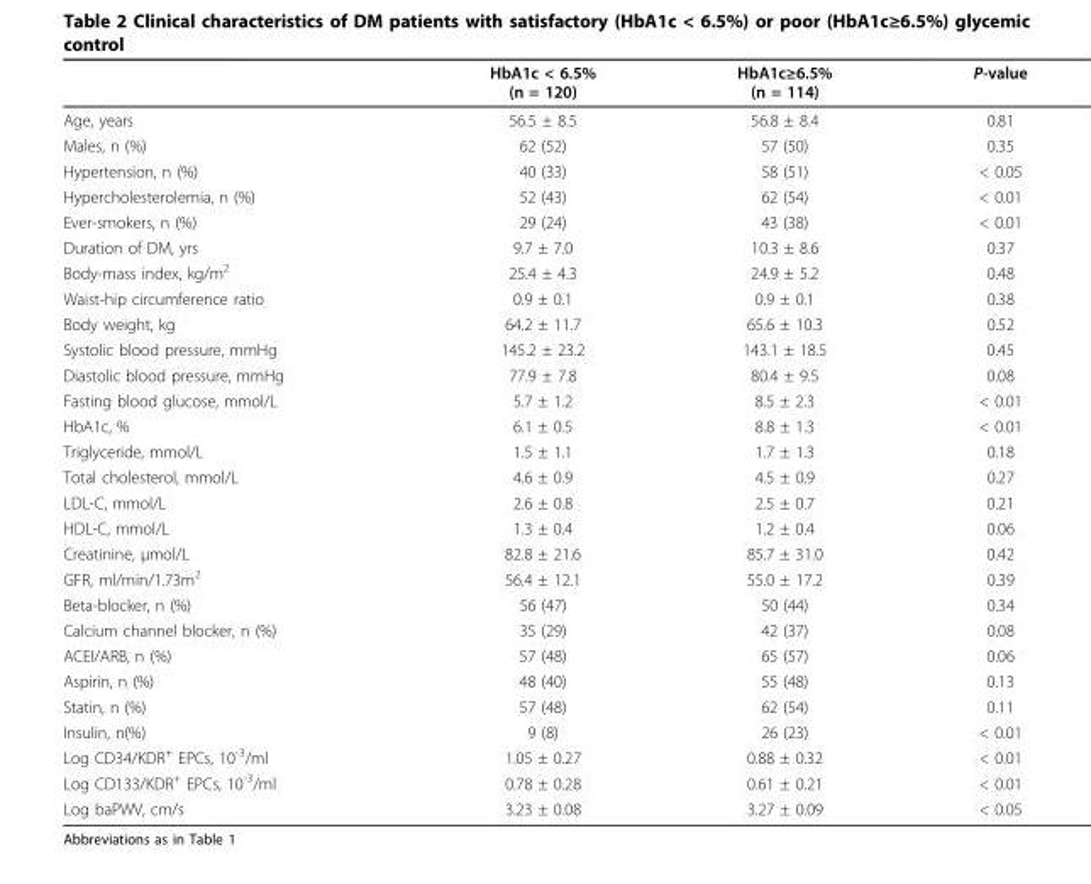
<table><thead><tr><td></td><td>HbA1c &lt; 6.5% (n = 120)</td><td>HbA1c≥6.5% (n = 114)</td><td>P-value</td></tr></thead><tbody><tr><td>Age, years</td><td>56.5 ± 8.5</td><td>56.8 ± 8.4</td><td>0.81</td></tr><tr><td>Males, n (%)</td><td>62 (52)</td><td>57 (50)</td><td>0.35</td></tr><tr><td>Hypertension, n (%)</td><td>40 (33)</td><td>58 (51)</td><td>&lt; 0.05</td></tr><tr><td>Hypercholesterolemia, n (%)</td><td>52 (43)</td><td>62 (54)</td><td>&lt; 0.01</td></tr><tr><td>Ever-smokers, n (%)</td><td>29 (24)</td><td>43 (38)</td><td>&lt; 0.01</td></tr><tr><td>Duration of DM, yrs</td><td>9.7 ± 7.0</td><td>10.3 ± 8.6</td><td>0.37</td></tr><tr><td>Body-mass index, kg/m<sup>2</sup></td><td>25.4 ± 4.3</td><td>24.9 ± 5.2</td><td>0.48</td></tr><tr><td>Waist-hip circumference ratio</td><td>0.9 ± 0.1</td><td>0.9 ± 0.1</td><td>0.38</td></tr><tr><td>Body weight, kg</td><td>64.2 ± 11.7</td><td>65.6 ± 10.3</td><td>0.52</td></tr><tr><td>Systolic blood pressure, mmHg</td><td>145.2 ± 23.2</td><td>143.1 ± 18.5</td><td>0.45</td></tr><tr><td>Diastolic blood pressure, mmHg</td><td>77.9 ± 7.8</td><td>80.4 ± 9.5</td><td>0.08</td></tr><tr><td>Fasting blood glucose, mmol/L</td><td>5.7 ± 1.2</td><td>8.5 ± 2.3</td><td>&lt; 0.01</td></tr><tr><td>HbA1c, %</td><td>6.1 ± 0.5</td><td>8.8 ± 1.3</td><td>&lt; 0.01</td></tr><tr><td>Triglyceride, mmol/L</td><td>1.5 ± 1.1</td><td>1.7 ± 1.3</td><td>0.18</td></tr><tr><td>Total cholesterol, mmol/L</td><td>4.6 ± 0.9</td><td>4.5 ± 0.9</td><td>0.27</td></tr><tr><td>LDL-C, mmol/L</td><td>2.6 ± 0.8</td><td>2.5 ± 0.7</td><td>0.21</td></tr><tr><td>HDL-C, mmol/L</td><td>1.3 ± 0.4</td><td>1.2 ± 0.4</td><td>0.06</td></tr><tr><td>Creatinine, μmol/L</td><td>82.8 ± 21.6</td><td>85.7 ± 31.0</td><td>0.42</td></tr><tr><td>GFR, ml/min/1.73m<sup>2</sup></td><td>56.4 ± 12.1</td><td>55.0 ± 17.2</td><td>0.39</td></tr><tr><td>Beta-blocker, n (%)</td><td>56 (47)</td><td>50 (44)</td><td>0.34</td></tr><tr><td>Calcium channel blocker, n (%)</td><td>35 (29)</td><td>42 (37)</td><td>0.08</td></tr><tr><td>ACEI/ARB, n (%)</td><td>57 (48)</td><td>65 (57)</td><td>0.06</td></tr><tr><td>Aspirin, n (%)</td><td>48 (40)</td><td>55 (48)</td><td>0.13</td></tr><tr><td>Statin, n (%)</td><td>57 (48)</td><td>62 (54)</td><td>0.11</td></tr><tr><td>Insulin, n(%)</td><td>9 (8)</td><td>26 (23)</td><td>&lt; 0.01</td></tr><tr><td>Log CD34/KDR<sup>+</sup> EPCs, 10<sup>-3</sup>/ml</td><td>1.05 ± 0.27</td><td>0.88 ± 0.32</td><td>&lt; 0.01</td></tr><tr><td>Log CD133/KDR<sup>+</sup> EPCs, 10<sup>-3</sup>/ml</td><td>0.78 ± 0.28</td><td>0.61 ± 0.21</td><td>&lt; 0.01</td></tr><tr><td>Log baPWV, cm/s</td><td>3.23 ± 0.08</td><td>3.27 ± 0.09</td><td>&lt; 0.05</td></tr></tbody></table>